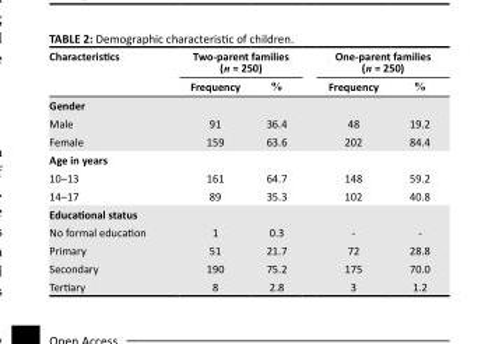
<table><thead><tr><td rowspan="2">Characteristics</td><td colspan="2">Two-parent families (n = 250)</td><td colspan="2">One-parent families (n = 250)</td></tr><tr><td>Frequency</td><td>%</td><td>Frequency</td><td>%</td></tr></thead><tbody><tr><td colspan="5">Gender</td></tr><tr><td>Male</td><td>91</td><td>36.4</td><td>48</td><td>19.2</td></tr><tr><td>Female</td><td>159</td><td>63.6</td><td>202</td><td>84.4</td></tr><tr><td colspan="5">Age in years</td></tr><tr><td>10–13</td><td>161</td><td>64.7</td><td>148</td><td>59.2</td></tr><tr><td>14–17</td><td>89</td><td>35.3</td><td>102</td><td>40.8</td></tr><tr><td colspan="5">Educational status</td></tr><tr><td>No formal education</td><td>1</td><td>0.3</td><td>-</td><td>-</td></tr><tr><td>Primary</td><td>51</td><td>21.7</td><td>72</td><td>28.8</td></tr><tr><td>Secondary</td><td>190</td><td>75.2</td><td>175</td><td>70.0</td></tr><tr><td>Tertiary</td><td>8</td><td>2.8</td><td>3</td><td>1.2</td></tr></tbody></table>